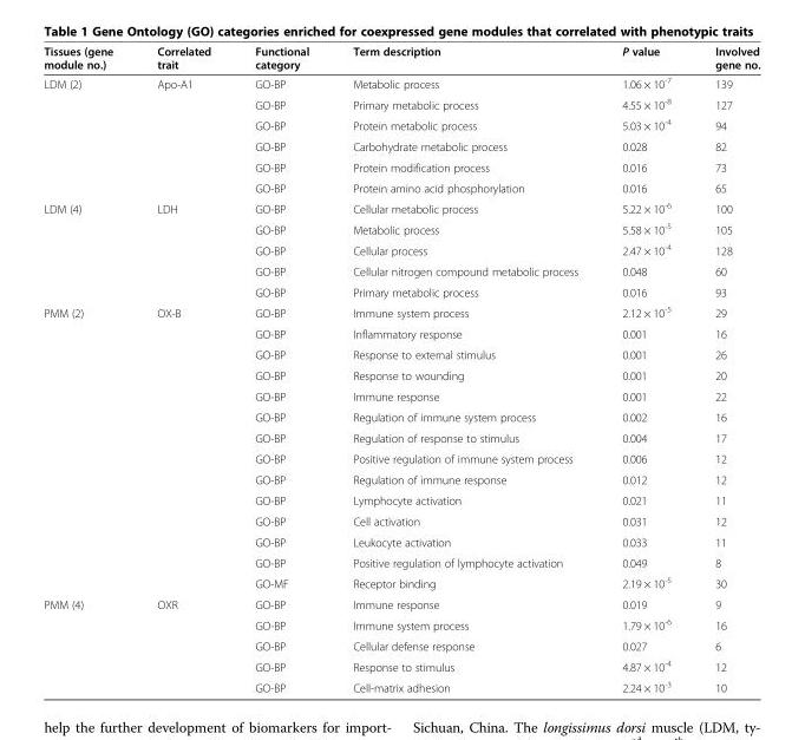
<table><thead><tr><td>Tissues (gene module no.)</td><td>Correlated trait</td><td>Functional category</td><td>Term description</td><td>P value</td><td>Involved gene no.</td></tr></thead><tbody><tr><td rowspan="6">LDM (2)</td><td rowspan="6">Apo-A1</td><td>GO-BP</td><td>Metabolic process</td><td>1.06 × 10<sup>-7</sup></td><td>139</td></tr><tr><td>GO-BP</td><td>Primary metabolic process</td><td>4.55 × 10<sup>-8</sup></td><td>127</td></tr><tr><td>GO-BP</td><td>Protein metabolic process</td><td>5.03 × 10<sup>-4</sup></td><td>94</td></tr><tr><td>GO-BP</td><td>Carbohydrate metabolic process</td><td>0.028</td><td>82</td></tr><tr><td>GO-BP</td><td>Protein modification process</td><td>0.016</td><td>73</td></tr><tr><td>GO-BP</td><td>Protein amino acid phosphorylation</td><td>0.016</td><td>65</td></tr><tr><td rowspan="5">LDM (4)</td><td rowspan="5">LDH</td><td>GO-BP</td><td>Cellular metabolic process</td><td>5.22 × 10<sup>-6</sup></td><td>100</td></tr><tr><td>GO-BP</td><td>Metabolic process</td><td>5.58 × 10<sup>-5</sup></td><td>105</td></tr><tr><td>GO-BP</td><td>Cellular process</td><td>2.47 × 10<sup>-4</sup></td><td>128</td></tr><tr><td>GO-BP</td><td>Cellular nitrogen compound metabolic process</td><td>0.048</td><td>60</td></tr><tr><td>GO-BP</td><td>Primary metabolic process</td><td>0.016</td><td>93</td></tr><tr><td rowspan="14">PMM (2)</td><td rowspan="14">OX-B</td><td>GO-BP</td><td>Immune system process</td><td>2.12 × 10<sup>-5</sup></td><td>29</td></tr><tr><td>GO-BP</td><td>Inflammatory response</td><td>0.001</td><td>16</td></tr><tr><td>GO-BP</td><td>Response to external stimulus</td><td>0.001</td><td>26</td></tr><tr><td>GO-BP</td><td>Response to wounding</td><td>0.001</td><td>20</td></tr><tr><td>GO-BP</td><td>Immune response</td><td>0.001</td><td>22</td></tr><tr><td>GO-BP</td><td>Regulation of immune system process</td><td>0.002</td><td>16</td></tr><tr><td>GO-BP</td><td>Regulation of response to stimulus</td><td>0.004</td><td>17</td></tr><tr><td>GO-BP</td><td>Positive regulation of immune system process</td><td>0.006</td><td>12</td></tr><tr><td>GO-BP</td><td>Regulation of immune response</td><td>0.012</td><td>12</td></tr><tr><td>GO-BP</td><td>Lymphocyte activation</td><td>0.021</td><td>11</td></tr><tr><td>GO-BP</td><td>Cell activation</td><td>0.031</td><td>12</td></tr><tr><td>GO-BP</td><td>Leukocyte activation</td><td>0.033</td><td>11</td></tr><tr><td>GO-BP</td><td>Positive regulation of lymphocyte activation</td><td>0.049</td><td>8</td></tr><tr><td>GO-MF</td><td>Receptor binding</td><td>2.19 × 10<sup>-5</sup></td><td>30</td></tr><tr><td rowspan="5">PMM (4)</td><td rowspan="4">OXR</td><td>GO-BP</td><td>Immune response</td><td>0.019</td><td>9</td></tr><tr><td>GO-BP</td><td>Immune system process</td><td>1.79 × 10<sup>-6</sup></td><td>16</td></tr><tr><td>GO-BP</td><td>Cellular defense response</td><td>0.027</td><td>6</td></tr><tr><td>GO-BP</td><td>Response to stimulus</td><td>4.87 × 10<sup>-4</sup></td><td>12</td></tr><tr><td></td><td>GO-BP</td><td>Cell-matrix adhesion</td><td>2.24 × 10<sup>-3</sup></td><td>10</td></tr></tbody></table>